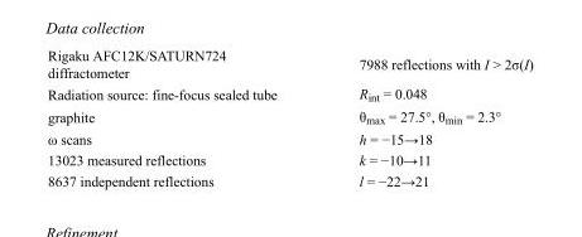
<table><tbody><tr><td>Rigaku AFC12K/SATURN724 diffractometer</td><td>7988 reflections with I &gt; 2σ(I)</td></tr><tr><td>Radiation source: fine-focus sealed tube</td><td>R<sub>int</sub> = 0.048</td></tr><tr><td>graphite</td><td>θ<sub>max</sub> = 27.5°, θ<sub>min</sub> = 2.3°</td></tr><tr><td>ω scans</td><td>h = −15→18</td></tr><tr><td>13023 measured reflections</td><td>k = −10→11</td></tr><tr><td>8637 independent reflections</td><td>l = −22→21</td></tr></tbody></table>